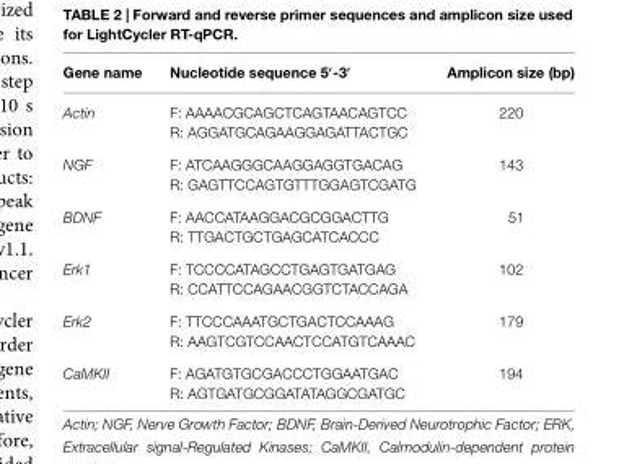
<table><thead><tr><td>Gene name</td><td>Nucleotide sequence 5′-3′</td><td>Amplicon size (bp)</td></tr></thead><tbody><tr><td>Actin</td><td>F: AAAACGCAGCTCAGTAACAGTCC R: AGGATGCAGAAGGAGATTACTGC</td><td>220</td></tr><tr><td>NGF</td><td>F: ATCAAGGGCAAGGAGGTGACAG R: GAGTTCCAGTGTTTGGAGTCGATG</td><td>143</td></tr><tr><td>BDNF</td><td>F: AACCATAAGGACGCGGACTTG R: TTGACTGCTGAGCATCACCC</td><td>51</td></tr><tr><td>Erk1</td><td>F: TCCCCATAGCCTGAGTGATGAG R: CCATTCCAGAACGGTCTACCAGA</td><td>102</td></tr><tr><td>Erk2</td><td>F: TTCCCAAATGCTGACTCCAAAG R: AAGTCGTCCAACTCCATGTCAAAC</td><td>179</td></tr><tr><td>CaMKII</td><td>F: AGATGTGCGACCCTGGAATGAC R: AGTGATGCGGATATAGGCGATGC</td><td>194</td></tr></tbody></table>